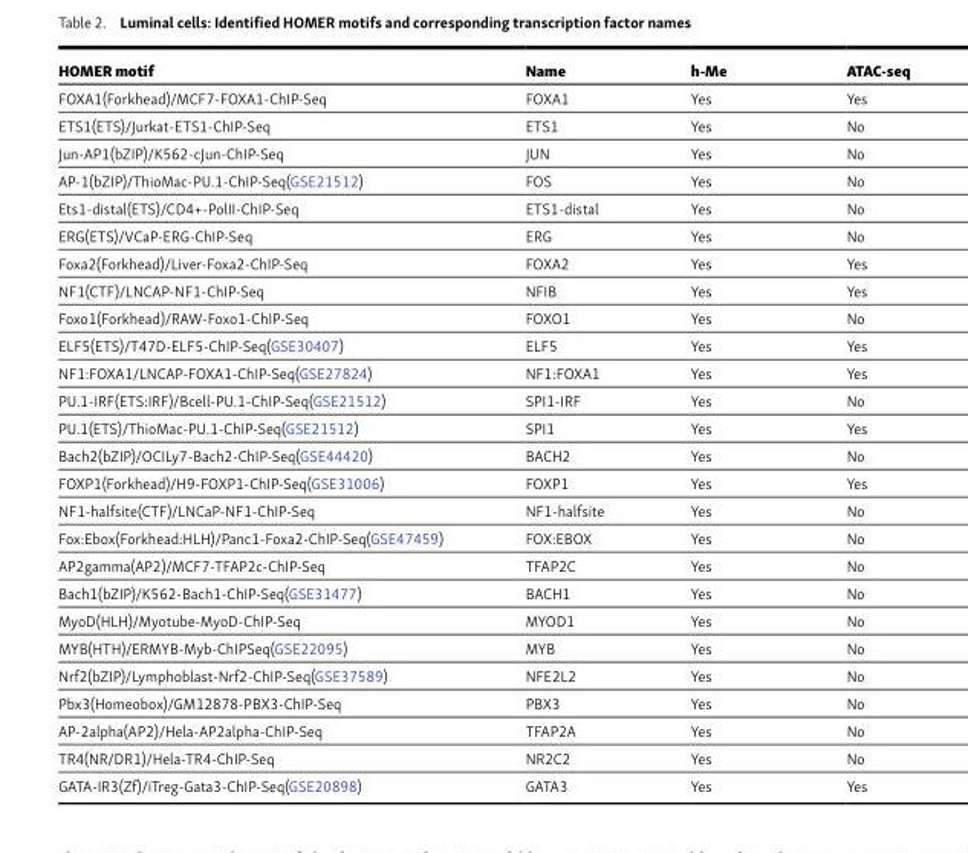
<table><thead><tr><td>HOM ER motif</td><td>Name</td><td>h-Me</td><td>ATAC-seq</td></tr></thead><tbody><tr><td>FOXA1(Forkhead)/MCF7-FOXA1-ChIP-Seq</td><td>FOXA1</td><td>Yes</td><td>Yes</td></tr><tr><td>ETS1(ETS)/Jurkat-ETS1-ChIP-Seq</td><td>ETS1</td><td>Yes</td><td>No</td></tr><tr><td>Jun-AP1(bZIP)/K562-cJun-ChIP-Seq</td><td>JUN</td><td>Yes</td><td>No</td></tr><tr><td>AP-1(bZIP)/ThioMac-PU.1-ChIP-Seq(GSE21512)</td><td>FOS</td><td>Yes</td><td>No</td></tr><tr><td>Ets1-distal(ETS)/CD4+-PolII-ChIP-Seq</td><td>ETS1-distal</td><td>Yes</td><td>No</td></tr><tr><td>ERG(ETS)/VCaP-ERG-ChIP-Seq</td><td>ERG</td><td>Yes</td><td>No</td></tr><tr><td>Foxa2(Forkhead)/Liver-Foxa2-ChIP-Seq</td><td>FOXA2</td><td>Yes</td><td>Yes</td></tr><tr><td>NF1(CTF)/LNC AP-NF1-ChIP-Seq</td><td>NFIB</td><td>Yes</td><td>Yes</td></tr><tr><td>Foxo1(Forkhead)/RAW-Foxo1-ChIP-Seq</td><td>FOXO1</td><td>Yes</td><td>No</td></tr><tr><td>ELF5(ETS)/T47D-ELF5-ChIP-Seq(GSE30407)</td><td>ELF5</td><td>Yes</td><td>Yes</td></tr><tr><td>NF1: FOXA1/ LNC AP -FOXA1 -ChIP -Seq(GSE27824)</td><td>NF1: FOXA1</td><td>Yes</td><td>Yes</td></tr><tr><td>PU.1-IRF(ETS: IRF)/Bcell-PU.1-ChIP-Seq(GSE21512)</td><td>SPI1-IRF</td><td>Yes</td><td>No</td></tr><tr><td>PU.1(ETS)/ThioMac-PU.1-ChIP-Seq(GSE21512)</td><td>SPI1</td><td>Yes</td><td>Yes</td></tr><tr><td>Bach2(bZIP)/OCILy7-Bach2-ChIP-Seq(GSE44420)</td><td>BACH2</td><td>Yes</td><td>No</td></tr><tr><td>FOXP1(Forkhead)/H9-FOXP1-ChIP-Seq(GSE31006)</td><td>FOXP1</td><td>Yes</td><td>Yes</td></tr><tr><td>NF1-halfsite(CTF)/LNCaP-NF1-ChIP-Seq</td><td>NF1-halfsite</td><td>Yes</td><td>No</td></tr><tr><td>Fox: Ebox(Forkhead: HLH)/ Panc1 -Foxa2 -ChIP -Seq(GSE47459)</td><td>FOX: EBOX</td><td>Yes</td><td>No</td></tr><tr><td>AP2gamma(AP2)/MCF7-TFAP2c-ChIP-Seq</td><td>TFAP2C</td><td>Yes</td><td>No</td></tr><tr><td>Bach1(bZIP)/K562-Bach1-ChIP-Seq(GSE31477)</td><td>BACH1</td><td>Yes</td><td>No</td></tr><tr><td>MyoD(HLH)/Myotube-MyoD-ChIP-Seq</td><td>MYOD1</td><td>Yes</td><td>No</td></tr><tr><td>MYB(HTH)/ERM YB-Myb-ChIPSeq(GSE22095)</td><td>MYB</td><td>Yes</td><td>No</td></tr><tr><td>Nrf2(bZIP)/Lymphoblast-Nrf2-ChIP-Seq(GSE37589)</td><td>NFE2L2</td><td>Yes</td><td>No</td></tr><tr><td>Pbx3(Homeobox)/GM12878-PBX3-ChIP-Seq</td><td>PBX3</td><td>Yes</td><td>No</td></tr><tr><td>AP-2alpha(AP2)/Hela-AP2alpha-ChIP-Seq</td><td>TFAP2A</td><td>Yes</td><td>No</td></tr><tr><td>TR4(NR/DR1)/Hela-TR4-ChIP-Seq</td><td>NR2C2</td><td>Yes</td><td>No</td></tr><tr><td>GATA-IR3(Zf)/iTreg-Gata3-ChIP-Seq(GSE20898)</td><td>GATA3</td><td>Yes</td><td>Yes</td></tr></tbody></table>